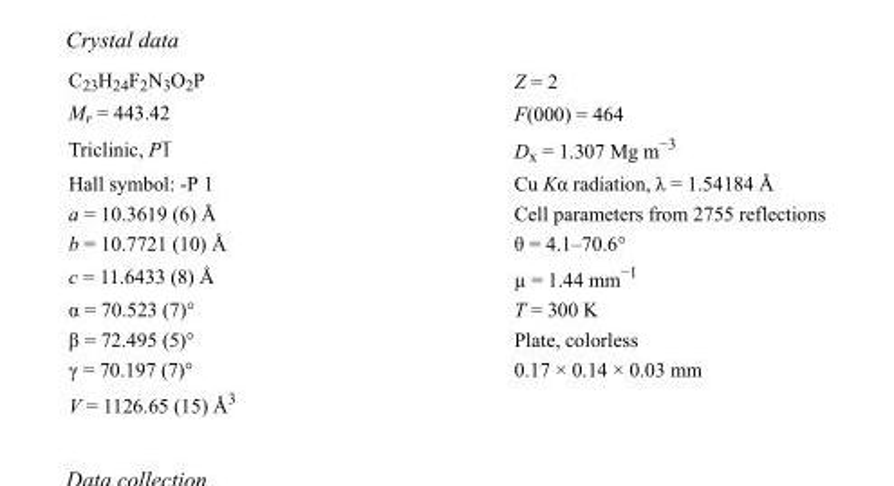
<table><tbody><tr><td>C<sub>23</sub>H<sub>24</sub>F<sub>2</sub>N<sub>3</sub>O<sub>2</sub>P</td><td>Z = 2</td></tr><tr><td>M<sub>r</sub> = 443.42</td><td>F(000) = 464</td></tr><tr><td>Triclinic, P1</td><td>D<sub>x</sub> = 1.307 Mg m<sup>−3</sup></td></tr><tr><td>Hall symbol: -P 1</td><td>Cu Kα radiation, λ = 1.54184 Å</td></tr><tr><td>a = 10.3619 (6) Å</td><td>Cell parameters from 2755 reflections</td></tr><tr><td>b = 10.7721 (10) Å</td><td>θ = 4.1–70.6°</td></tr><tr><td>c = 11.6433 (8) Å</td><td>µ = 1.44 mm<sup>−1</sup></td></tr><tr><td>α = 70.523 (7)°</td><td>T = 300 K</td></tr><tr><td>β = 72.495 (5)°</td><td>Plate, colorless</td></tr><tr><td>γ = 70.197 (7)°</td><td>0.17 × 0.14 × 0.03 mm</td></tr><tr><td>V = 1126.65 (15) Å<sup>3</sup></td><td></td></tr></tbody></table>